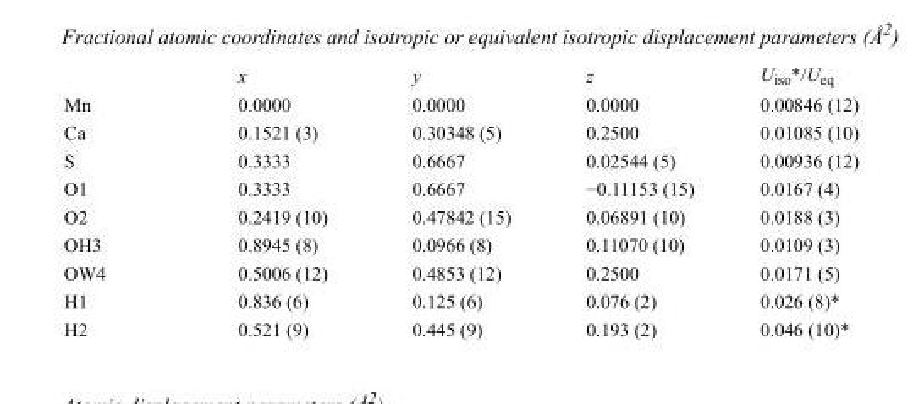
<table><thead><tr><td></td><td>x</td><td>y</td><td>z</td><td>U<sub>iso</sub>*/U<sub>eq</sub></td></tr></thead><tbody><tr><td>Mn</td><td>0.0000</td><td>0.0000</td><td>0.0000</td><td>0.00846 (12)</td></tr><tr><td>Ca</td><td>0.1521 (3)</td><td>0.30348 (5)</td><td>0.2500</td><td>0.01085 (10)</td></tr><tr><td>S</td><td>0.3333</td><td>0.6667</td><td>0.02544 (5)</td><td>0.00936 (12)</td></tr><tr><td>O1</td><td>0.3333</td><td>0.6667</td><td>−0.11153 (15)</td><td>0.0167 (4)</td></tr><tr><td>O2</td><td>0.2419 (10)</td><td>0.47842 (15)</td><td>0.06891 (10)</td><td>0.0188 (3)</td></tr><tr><td>OH3</td><td>0.8945 (8)</td><td>0.0966 (8)</td><td>0.11070 (10)</td><td>0.0109 (3)</td></tr><tr><td>OW4</td><td>0.5006 (12)</td><td>0.4853 (12)</td><td>0.2500</td><td>0.0171 (5)</td></tr><tr><td>H1</td><td>0.836 (6)</td><td>0.125 (6)</td><td>0.076 (2)</td><td>0.026 (8)*</td></tr><tr><td>H2</td><td>0.521 (9)</td><td>0.445 (9)</td><td>0.193 (2)</td><td>0.046 (10)*</td></tr></tbody></table>